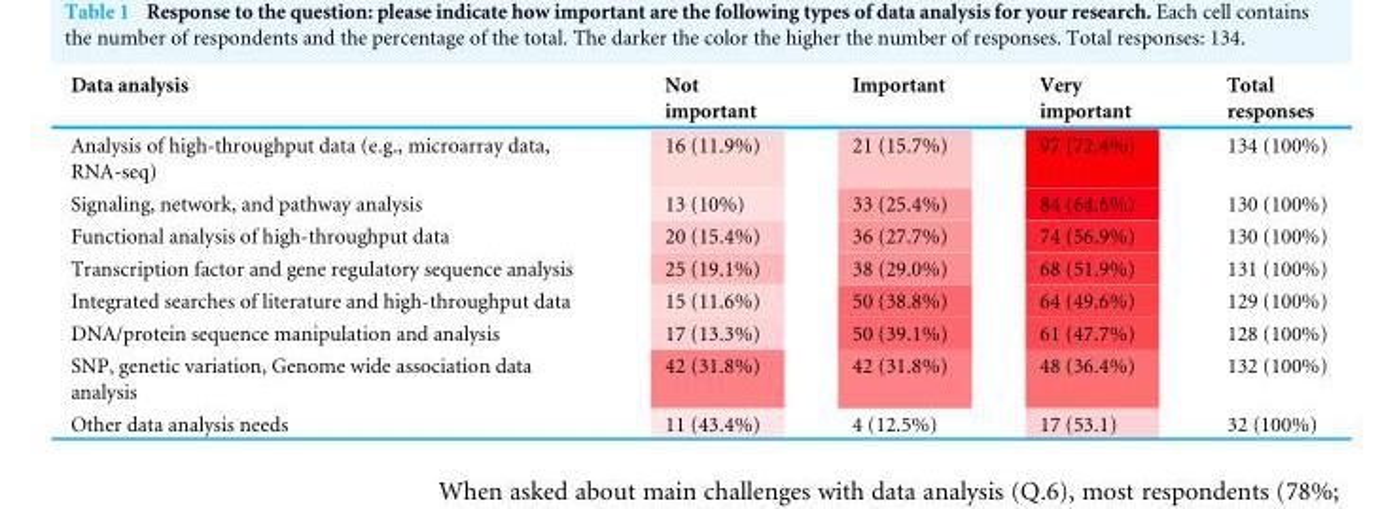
<table><thead><tr><td>Data analysis</td><td>Not important</td><td>Important</td><td>Very important</td><td>Total responses</td></tr></thead><tbody><tr><td>Analysis of high-throughput data (e.g., microarray data, RNA-seq)</td><td>16 (11.9%)</td><td>21 (15.7%)</td><td>97 (72.4%)</td><td>134 (100%)</td></tr><tr><td>Signaling, network, and pathway analysis</td><td>13 (10%)</td><td>33 (25.4%)</td><td>84 (64.6%)</td><td>130 (100%)</td></tr><tr><td>Functional analysis of high-throughput data</td><td>20 (15.4%)</td><td>36 (27.7%)</td><td>74 (56.9%)</td><td>130 (100%)</td></tr><tr><td>Transcription factor and gene regulatory sequence analysis</td><td>25 (19.1%)</td><td>38 (29.0%)</td><td>68 (51.9%)</td><td>131 (100%)</td></tr><tr><td>Integrated searches of literature and high-throughput data</td><td>15 (11.6%)</td><td>50 (38.8%)</td><td>64 (49.6%)</td><td>129 (100%)</td></tr><tr><td>DNA/protein sequence manipulation and analysis</td><td>17 (13.3%)</td><td>50 (39.1%)</td><td>61 (47.7%)</td><td>128 (100%)</td></tr><tr><td>SNP, genetic variation, Genome wide association data analysis</td><td>42 (31.8%)</td><td>42 (31.8%)</td><td>48 (36.4%)</td><td>132 (100%)</td></tr><tr><td>Other data analysis needs</td><td>11 (43.4%)</td><td>4 (12.5%)</td><td>17 (53.1)</td><td>32 (100%)</td></tr></tbody></table>